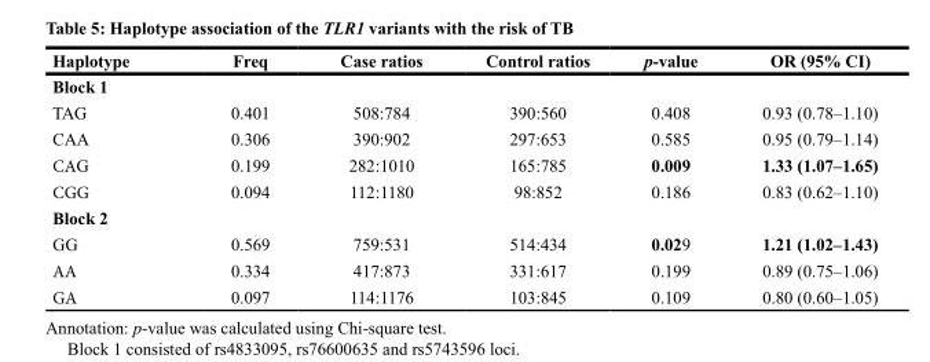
<table><thead><tr><td>Haplotype</td><td>Freq</td><td>Case ratios</td><td>Control ratios</td><td>p-value</td><td>OR (95% CI)</td></tr></thead><tbody><tr><td colspan="6">Block 1</td></tr><tr><td>TAG</td><td>0.401</td><td>508:784</td><td>390:560</td><td>0.408</td><td>0.93 (0.78–1.10)</td></tr><tr><td>CAA</td><td>0.306</td><td>390:902</td><td>297:653</td><td>0.585</td><td>0.95 (0.79–1.14)</td></tr><tr><td>CAG</td><td>0.199</td><td>282:1010</td><td>165:785</td><td>0.009</td><td>1.33 (1.07–1.65)</td></tr><tr><td>CGG</td><td>0.094</td><td>112:1180</td><td>98:852</td><td>0.186</td><td>0.83 (0.62–1.10)</td></tr><tr><td colspan="6">Block 2</td></tr><tr><td>GG</td><td>0.569</td><td>759:531</td><td>514:434</td><td>0.029</td><td>1.21 (1.02–1.43)</td></tr><tr><td>AA</td><td>0.334</td><td>417:873</td><td>331:617</td><td>0.199</td><td>0.89 (0.75–1.06)</td></tr><tr><td>GA</td><td>0.097</td><td>114:1176</td><td>103:845</td><td>0.109</td><td>0.80 (0.60–1.05)</td></tr></tbody></table>